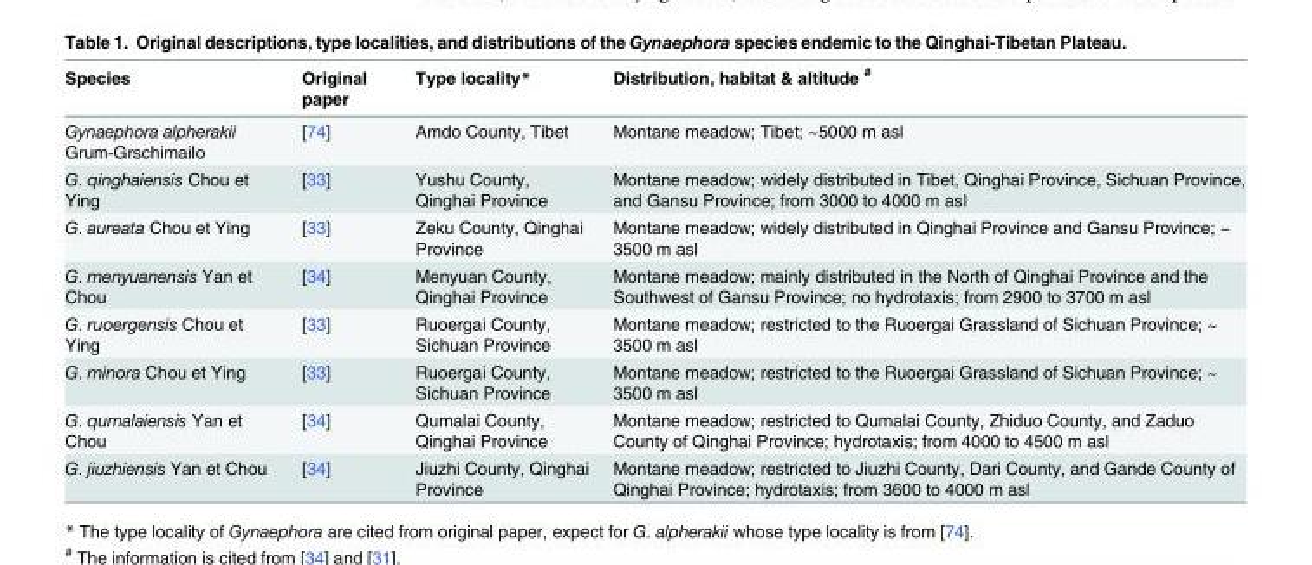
<table><thead><tr><td>Species</td><td>Original paper</td><td>Type locality*</td><td>Distribution, habitat &amp; altitude <sup>#</sup></td></tr></thead><tbody><tr><td>Gynaephora alpherakii Grum-Grschimailo</td><td>[74]</td><td>Amdo County, Tibet</td><td>Montane meadow; Tibet; ~5000 m asl</td></tr><tr><td>G. qinghaiensis Chou et Ying</td><td>[33]</td><td>Yushu County, Qinghai Province</td><td>Montane meadow; widely distributed in Tibet, Qinghai Province, Sichuan Province, and Gansu Province; from 3000 to 4000 m asl</td></tr><tr><td>G. aureata Chou et Ying</td><td>[33]</td><td>Zeku County, Qinghai Province</td><td>Montane meadow; widely distributed in Qinghai Province and Gansu Province; ~ 3500 m asl</td></tr><tr><td>G. menyuanensis Yan et Chou</td><td>[34]</td><td>Menyuan County, Qinghai Province</td><td>Montane meadow; mainly distributed in the North of Qinghai Province and the Southwest of Gansu Province; no hydrotaxis; from 2900 to 3700 m asl</td></tr><tr><td>G. ruoergensis Chou et Ying</td><td>[33]</td><td>Ruoergai County, Sichuan Province</td><td>Montane meadow; restricted to the Ruoergai Grassland of Sichuan Province; ~ 3500 m asl</td></tr><tr><td>G. minora Chou et Ying</td><td>[33]</td><td>Ruoergai County, Sichuan Province</td><td>Montane meadow; restricted to the Ruoergai Grassland of Sichuan Province; ~ 3500 m asl</td></tr><tr><td>G. qumalaiensis Yan et Chou</td><td>[34]</td><td>Qumalai County, Qinghai Province</td><td>Montane meadow; restricted to Qumalai County, Zhiduo County, and Zaduo County of Qinghai Province; hydrotaxis; from 4000 to 4500 m asl</td></tr><tr><td>G. jiuzhiensis Yan et Chou</td><td>[34]</td><td>Jiuzhi County, Qinghai Province</td><td>Montane meadow; restricted to Jiuzhi County, Dari County, and Gande County of Qinghai Province; hydrotaxis; from 3600 to 4000 m asl</td></tr></tbody></table>